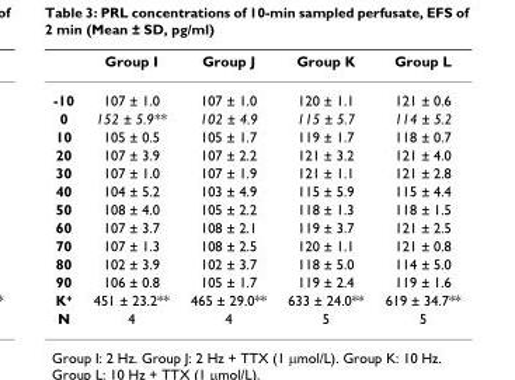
<table><thead><tr><td></td><td>Group I</td><td>Group J</td><td>Group K</td><td>Group L</td></tr></thead><tbody><tr><td>-10</td><td>107 ± 1.0</td><td>107 ± 1.0</td><td>120 ± 1.1</td><td>121 ± 0.6</td></tr><tr><td>0</td><td>152 ± 5.9**</td><td>102 ± 4.9</td><td>115 ± 5.7</td><td>114 ± 5.2</td></tr><tr><td>10</td><td>105 ± 0.5</td><td>105 ± 1.7</td><td>119 ± 1.7</td><td>118 ± 0.7</td></tr><tr><td>20</td><td>107 ± 3.9</td><td>107 ± 2.2</td><td>121 ± 3.2</td><td>121 ± 4.0</td></tr><tr><td>30</td><td>107 ± 1.0</td><td>107 ± 1.9</td><td>121 ± 1.1</td><td>121 ± 2.8</td></tr><tr><td>40</td><td>104 ± 5.2</td><td>103 ± 4.9</td><td>115 ± 5.9</td><td>115 ± 4.4</td></tr><tr><td>50</td><td>108 ± 4.0</td><td>105 ± 2.2</td><td>118 ± 1.3</td><td>118 ± 1.5</td></tr><tr><td>60</td><td>107 ± 3.7</td><td>108 ± 2.1</td><td>119 ± 3.7</td><td>121 ± 2.5</td></tr><tr><td>70</td><td>107 ± 1.3</td><td>108 ± 2.5</td><td>120 ± 1.1</td><td>121 ± 0.8</td></tr><tr><td>80</td><td>102 ± 3.9</td><td>102 ± 3.7</td><td>118 ± 5.0</td><td>114 ± 5.0</td></tr><tr><td>90</td><td>106 ± 0.8</td><td>105 ± 1.7</td><td>119 ± 2.4</td><td>119 ± 1.6</td></tr><tr><td>K<sup>+</sup></td><td>451 ± 23.2**</td><td>465 ± 29.0**</td><td>633 ± 24.0**</td><td>619 ± 34.7**</td></tr><tr><td>N</td><td>4</td><td>4</td><td>5</td><td>5</td></tr></tbody></table>